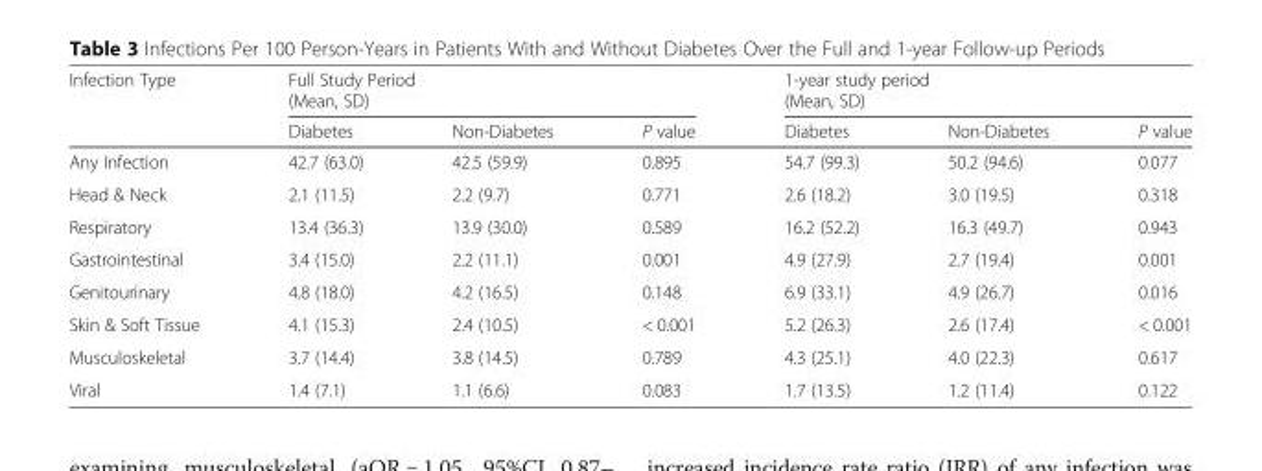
<table><thead><tr><td rowspan="2">Infection Type</td><td colspan="3">Full Study Period (Mean, SD)</td><td colspan="3">1-year study period (Mean, SD)</td></tr><tr><td>Diabetes</td><td>Non-Diabetes</td><td>P value</td><td>Diabetes</td><td>Non-Diabetes</td><td>P value</td></tr></thead><tbody><tr><td>Any Infection</td><td>42.7 (63.0)</td><td>42.5 (59.9)</td><td>0.895</td><td>54.7 (99.3)</td><td>50.2 (94.6)</td><td>0.077</td></tr><tr><td>Head &amp; Neck</td><td>2.1 (11.5)</td><td>2.2 (9.7)</td><td>0.771</td><td>2.6 (18.2)</td><td>3.0 (19.5)</td><td>0.318</td></tr><tr><td>Respiratory</td><td>13.4 (36.3)</td><td>13.9 (30.0)</td><td>0.589</td><td>16.2 (52.2)</td><td>16.3 (49.7)</td><td>0.943</td></tr><tr><td>Gastrointestinal</td><td>3.4 (15.0)</td><td>2.2 (11.1)</td><td>0.001</td><td>4.9 (27.9)</td><td>2.7 (19.4)</td><td>0.001</td></tr><tr><td>Genitourinary</td><td>4.8 (18.0)</td><td>4.2 (16.5)</td><td>0.148</td><td>6.9 (33.1)</td><td>4.9 (26.7)</td><td>0.016</td></tr><tr><td>Skin &amp; Soft Tissue</td><td>4.1 (15.3)</td><td>2.4 (10.5)</td><td>&lt; 0.001</td><td>5.2 (26.3)</td><td>2.6 (17.4)</td><td>&lt; 0.001</td></tr><tr><td>Musculoskeletal</td><td>3.7 (14.4)</td><td>3.8 (14.5)</td><td>0.789</td><td>4.3 (25.1)</td><td>4.0 (22.3)</td><td>0.617</td></tr><tr><td>Viral</td><td>1.4 (7.1)</td><td>1.1 (6.6)</td><td>0.083</td><td>1.7 (13.5)</td><td>1.2 (11.4)</td><td>0.122</td></tr></tbody></table>